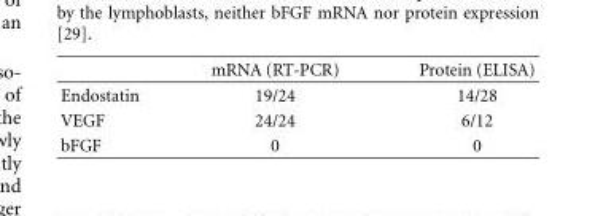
<table><thead><tr><td></td><td>mRNA (RT-PCR)</td><td>Protein (ELISA)</td></tr></thead><tbody><tr><td>Endostatin</td><td>19/24</td><td>14/28</td></tr><tr><td>VEGF</td><td>24/24</td><td>6/12</td></tr><tr><td>bFGF</td><td>0</td><td>0</td></tr></tbody></table>